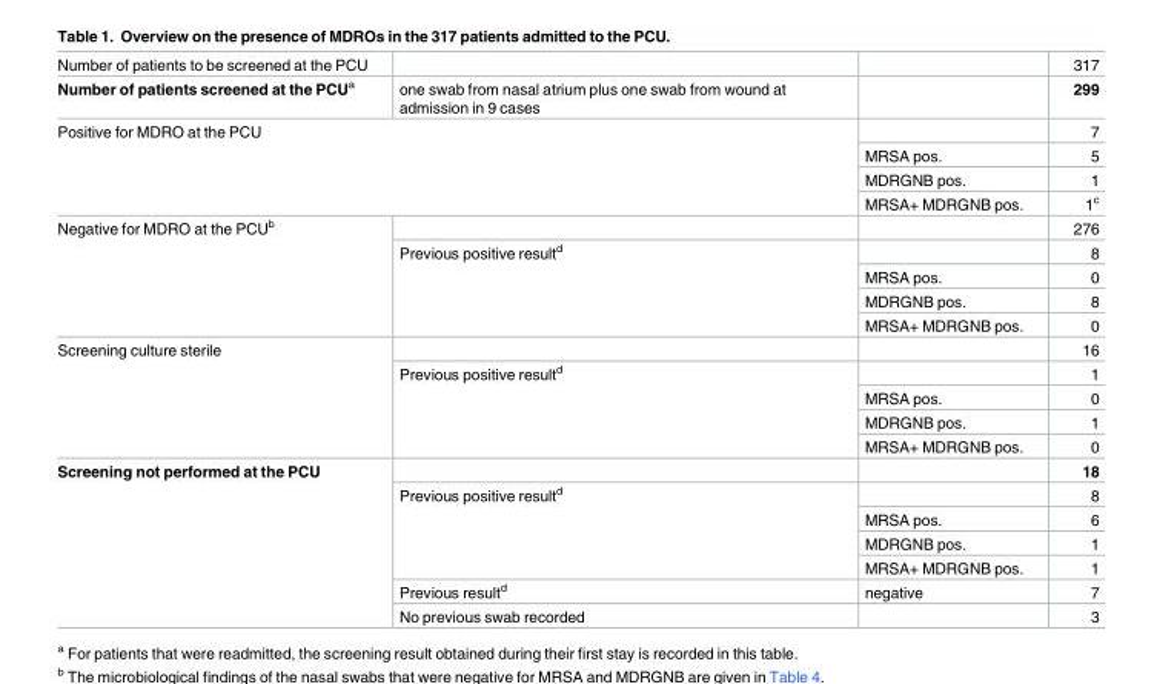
<table><tbody><tr><td>Number of patients to be screened at the PCU</td><td></td><td></td><td>317</td></tr><tr><td>Number of patients screened at the PCU<sup>a</sup></td><td>one swab from nasal atrium plus one swab from wound at admission in 9 cases</td><td></td><td>299</td></tr><tr><td rowspan="4" colspan="2">Positive for MDRO at the PCU</td><td></td><td>7</td></tr><tr><td>MRSA pos.</td><td>5</td></tr><tr><td>MDRGNB pos.</td><td>1</td></tr><tr><td>MRSA+ MDRGNB pos.</td><td>1<sup>c</sup></td></tr><tr><td rowspan="5">Negative for MDRO at the PCU<sup>b</sup></td><td></td><td></td><td>276</td></tr><tr><td rowspan="4">Previous positive result<sup>d</sup></td><td></td><td>8</td></tr><tr><td>MRSA pos.</td><td>0</td></tr><tr><td>MDRGNB pos.</td><td>8</td></tr><tr><td>MRSA+ MDRGNB pos.</td><td>0</td></tr><tr><td rowspan="5">Screening culture sterile</td><td></td><td></td><td>16</td></tr><tr><td rowspan="4">Previous positive result<sup>d</sup></td><td></td><td>1</td></tr><tr><td>MRSA pos.</td><td>0</td></tr><tr><td>MDRGNB pos.</td><td>1</td></tr><tr><td>MRSA+ MDRGNB pos.</td><td>0</td></tr><tr><td rowspan="7">Screening not performed at the PCU</td><td></td><td></td><td>18</td></tr><tr><td rowspan="4">Previous positive result<sup>d</sup></td><td></td><td>8</td></tr><tr><td>MRSA pos.</td><td>6</td></tr><tr><td>MDRGNB pos.</td><td>1</td></tr><tr><td>MRSA+ MDRGNB pos.</td><td>1</td></tr><tr><td>Previous result<sup>d</sup></td><td>negative</td><td>7</td></tr><tr><td>No previous swab recorded</td><td></td><td>3</td></tr></tbody></table>